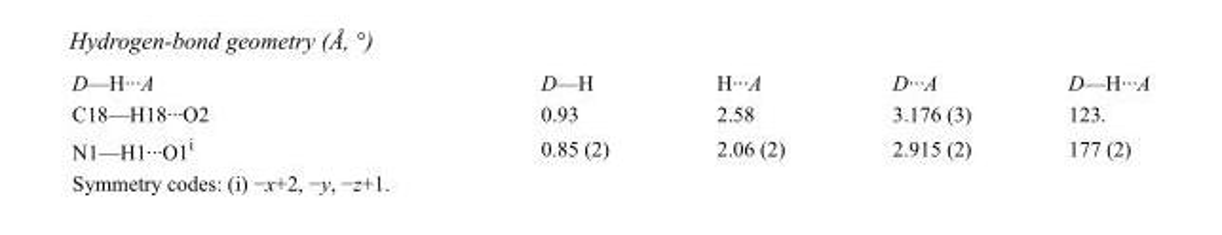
<table><tbody><tr><td>D—H···A</td><td>D—H</td><td>H···A</td><td>D···A</td><td>D—H···A</td></tr><tr><td>C18—H18···O2</td><td>0.93</td><td>2.58</td><td>3.176 (3)</td><td>123.</td></tr><tr><td>N1—H1···O1<sup>i</sup></td><td>0.85 (2)</td><td>2.06 (2)</td><td>2.915 (2)</td><td>177 (2)</td></tr></tbody></table>